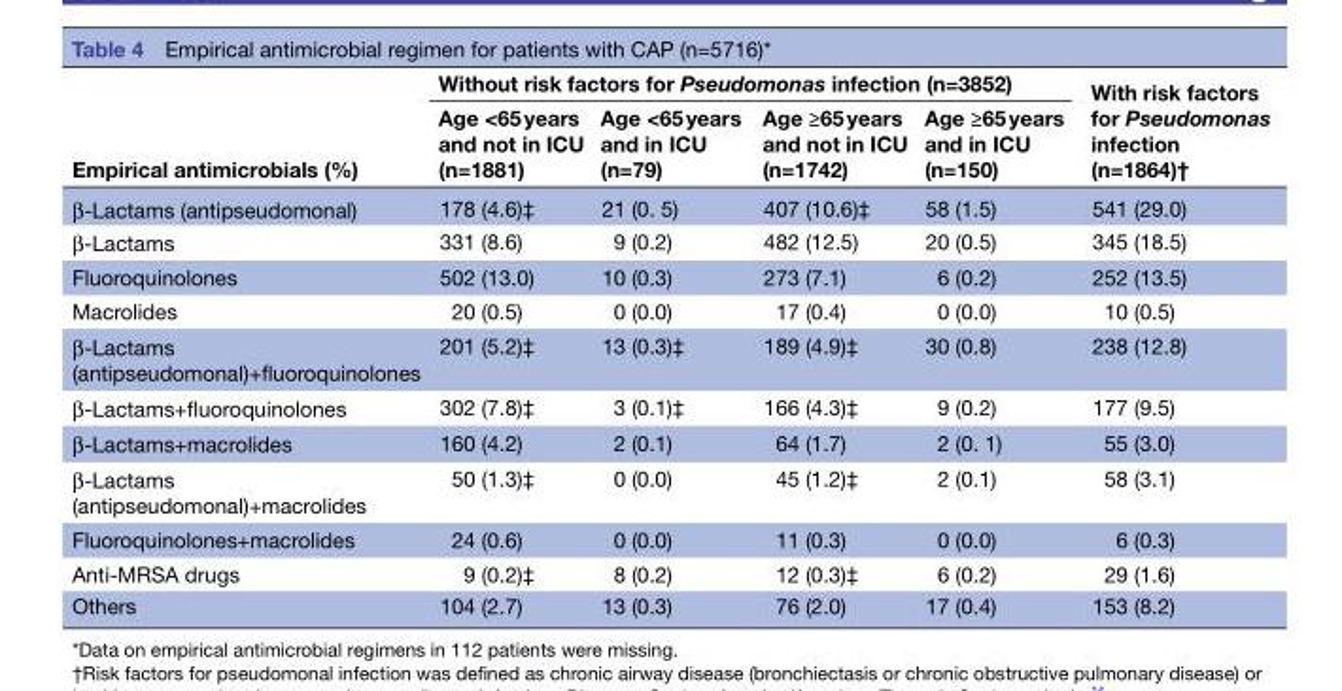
<table><thead><tr><td rowspan="2">Empirical antimicrobials (%)</td><td colspan="4">Without risk factors for Pseudomonas infection (n=3852)</td><td rowspan="2">With risk factors for Pseudomonas infection (n=1864)†</td></tr><tr><td>Age &lt;65 years and not in ICU (n=1881)</td><td>Age &lt;65 years and in ICU (n=79)</td><td>Age ≥65 years and not in ICU (n=1742)</td><td>Age ≥65 years and in ICU (n=150)</td></tr></thead><tbody><tr><td>β-Lactams (antipseudomonal)</td><td>178 (4.6)‡</td><td>21 (0. 5)</td><td>407 (10.6)‡</td><td>58 (1.5)</td><td>541 (29.0)</td></tr><tr><td>β-Lactams</td><td>331 (8.6)</td><td>9 (0.2)</td><td>482 (12.5)</td><td>20 (0.5)</td><td>345 (18.5)</td></tr><tr><td>Fluoroquinolones</td><td>502 (13.0)</td><td>10 (0.3)</td><td>273 (7.1)</td><td>6 (0.2)</td><td>252 (13.5)</td></tr><tr><td>Macrolides</td><td>20 (0.5)</td><td>0 (0.0)</td><td>17 (0.4)</td><td>0 (0.0)</td><td>10 (0.5)</td></tr><tr><td>β-Lactams (antipseudomonal)+fluoroquinolones</td><td>201 (5.2)‡</td><td>13 (0.3)‡</td><td>189 (4.9)‡</td><td>30 (0.8)</td><td>238 (12.8)</td></tr><tr><td>β-Lactams+fluoroquinolones</td><td>302 (7.8)‡</td><td>3 (0.1)‡</td><td>166 (4.3)‡</td><td>9 (0.2)</td><td>177 (9.5)</td></tr><tr><td>β-Lactams+macrolides</td><td>160 (4.2)</td><td>2 (0.1)</td><td>64 (1.7)</td><td>2 (0. 1)</td><td>55 (3.0)</td></tr><tr><td>β-Lactams (antipseudomonal)+macrolides</td><td>50 (1.3)‡</td><td>0 (0.0)</td><td>45 (1.2)‡</td><td>2 (0.1)</td><td>58 (3.1)</td></tr><tr><td>Fluoroquinolones+macrolides</td><td>24 (0.6)</td><td>0 (0.0)</td><td>11 (0.3)</td><td>0 (0.0)</td><td>6 (0.3)</td></tr><tr><td>Anti-MRSA drugs</td><td>9 (0.2)‡</td><td>8 (0.2)</td><td>12 (0.3)‡</td><td>6 (0.2)</td><td>29 (1.6)</td></tr><tr><td>Others</td><td>104 (2.7)</td><td>13 (0.3)</td><td>76 (2.0)</td><td>17 (0.4)</td><td>153 (8.2)</td></tr></tbody></table>